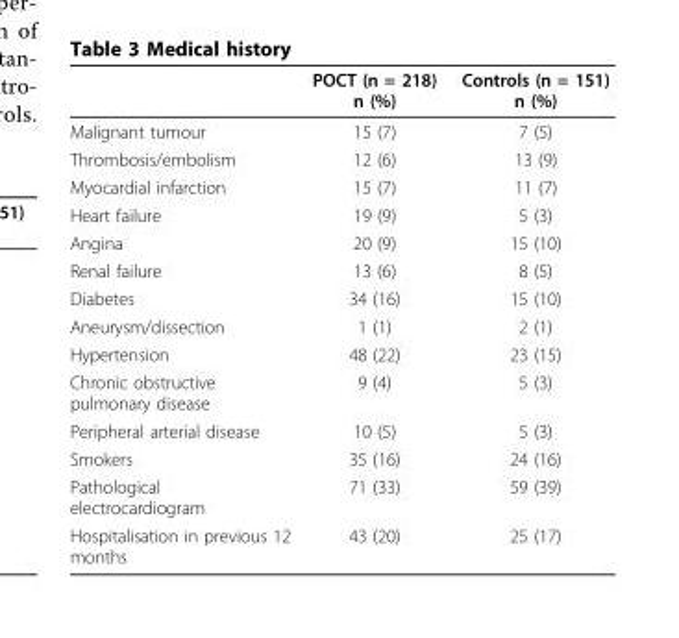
<table><thead><tr><td></td><td>POCT (n = 218) n (%)</td><td>Controls (n = 151) n (%)</td></tr></thead><tbody><tr><td>Malignant tumour</td><td>15 (7)</td><td>7 (5)</td></tr><tr><td>Thrombosis/embolism</td><td>12 (6)</td><td>13 (9)</td></tr><tr><td>Myocardial infarction</td><td>15 (7)</td><td>11 (7)</td></tr><tr><td>Heart failure</td><td>19 (9)</td><td>5 (3)</td></tr><tr><td>Angina</td><td>20 (9)</td><td>15 (10)</td></tr><tr><td>Renal failure</td><td>13 (6)</td><td>8 (5)</td></tr><tr><td>Diabetes</td><td>34 (16)</td><td>15 (10)</td></tr><tr><td>Aneurysm/dissection</td><td>1 (1)</td><td>2 (1)</td></tr><tr><td>Hypertension</td><td>48 (22)</td><td>23 (15)</td></tr><tr><td>Chronic obstructive pulmonary disease</td><td>9 (4)</td><td>5 (3)</td></tr><tr><td>Peripheral arterial disease</td><td>10 (5)</td><td>5 (3)</td></tr><tr><td>Smokers</td><td>35 (16)</td><td>24 (16)</td></tr><tr><td>Pathological electrocardiogram</td><td>71 (33)</td><td>59 (39)</td></tr><tr><td>Hospitalisation in previous 12 months</td><td>43 (20)</td><td>25 (17)</td></tr></tbody></table>